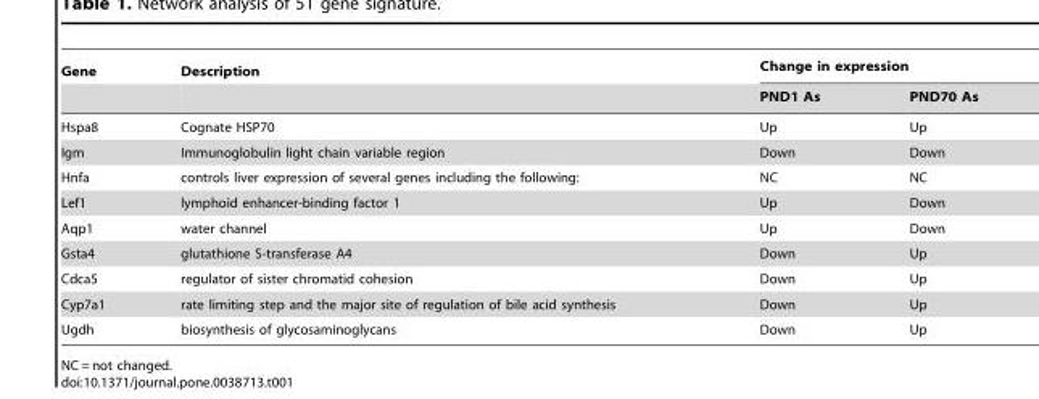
<table><thead><tr><td rowspan="2">Gene</td><td rowspan="2">Description</td><td colspan="2">Change in expression</td></tr><tr><td>PND1 As</td><td>PND70 As</td></tr></thead><tbody><tr><td>Hspa8</td><td>Cognate HSP70</td><td>Up</td><td>Up</td></tr><tr><td>Igm</td><td>Immunoglobulin light chain variable region</td><td>Down</td><td>Down</td></tr><tr><td>Hnfa</td><td>controls liver expression of several genes including the following:</td><td>NC</td><td>NC</td></tr><tr><td>Lef1</td><td>lymphoid enhancer-binding factor 1</td><td>Up</td><td>Down</td></tr><tr><td>Aqp1</td><td>water channel</td><td>Up</td><td>Down</td></tr><tr><td>Gsta4</td><td>glutathione S-transferase A4</td><td>Down</td><td>Up</td></tr><tr><td>Cdca5</td><td>regulator of sister chromatid cohesion</td><td>Down</td><td>Up</td></tr><tr><td>Cyp7a1</td><td>rate limiting step and the major site of regulation of bile acid synthesis</td><td>Down</td><td>Up</td></tr><tr><td>Ugdh</td><td>biosynthesis of glycosaminoglycans</td><td>Down</td><td>Up</td></tr></tbody></table>